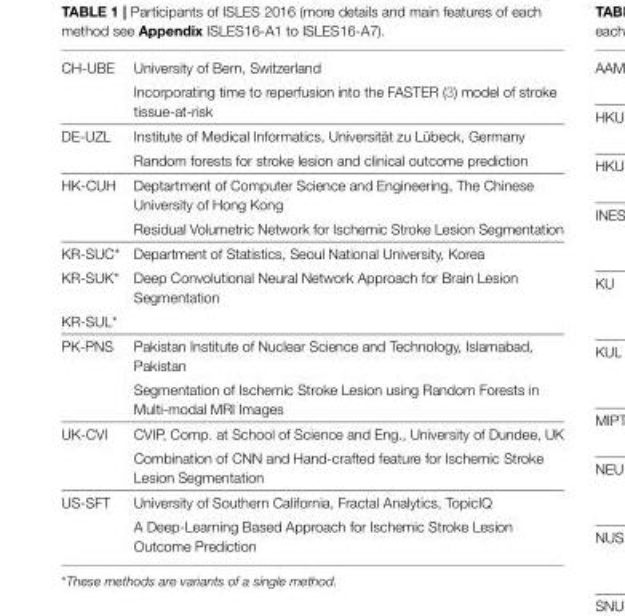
<table><tbody><tr><td rowspan="2">CH-UBE</td><td>University of Bern, Switzerland</td></tr><tr><td>Incorporating time to reperfusion into the FASTER (3) model of stroke tissue-at-risk</td></tr><tr><td rowspan="2">DE-UZL</td><td>Institute of Medical Informatics, Universität zu Lübeck, Germany</td></tr><tr><td>Random forests for stroke lesion and clinical outcome prediction</td></tr><tr><td rowspan="2">HK-CUH</td><td>Deptartment of Computer Science and Engineering, The Chinese University of Hong Kong</td></tr><tr><td>Residual Volumetric Network for Ischemic Stroke Lesion Segmentation</td></tr><tr><td>KR-SUC*</td><td>Department of Statistics, Seoul National University, Korea</td></tr><tr><td>KR-SUK*</td><td>Deep Convolutional Neural Network Approach for Brain Lesion Segmentation</td></tr><tr><td colspan="2">KR-SUL*</td></tr><tr><td rowspan="2">PK-PNS</td><td>Pakistan Institute of Nuclear Science and Technology, Islamabad, Pakistan</td></tr><tr><td>Segmentation of Ischemic Stroke Lesion using Random Forests in Multi-modal MRI Images</td></tr><tr><td rowspan="2">UK-CVI</td><td>CVIP, Comp. at School of Science and Eng., University of Dundee, UK</td></tr><tr><td>Combination of CNN and Hand-crafted feature for Ischemic Stroke Lesion Segmentation</td></tr><tr><td rowspan="2">US-SFT</td><td>University of Southern California, Fractal Analytics, TopicIQ</td></tr><tr><td>A Deep-Learning Based Approach for Ischemic Stroke Lesion Outcome Prediction</td></tr></tbody></table>